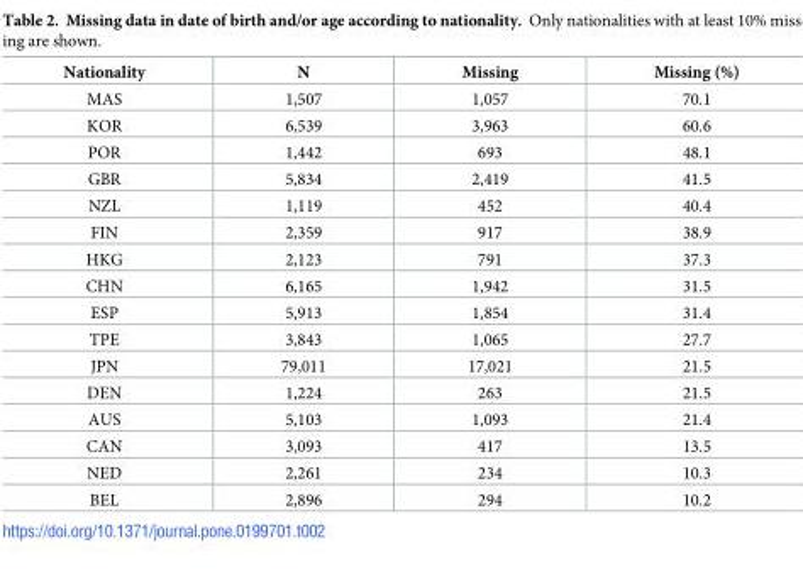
<table><thead><tr><td>Nationality</td><td>N</td><td>Missing</td><td>Missing (%)</td></tr></thead><tbody><tr><td>MAS</td><td>1,507</td><td>1,057</td><td>70.1</td></tr><tr><td>KOR</td><td>6,539</td><td>3,963</td><td>60.6</td></tr><tr><td>POR</td><td>1,442</td><td>693</td><td>48.1</td></tr><tr><td>GBR</td><td>5,834</td><td>2,419</td><td>41.5</td></tr><tr><td>NZL</td><td>1,119</td><td>452</td><td>40.4</td></tr><tr><td>FIN</td><td>2,359</td><td>917</td><td>38.9</td></tr><tr><td>HKG</td><td>2,123</td><td>791</td><td>37.3</td></tr><tr><td>CHN</td><td>6,165</td><td>1,942</td><td>31.5</td></tr><tr><td>ESP</td><td>5,913</td><td>1,854</td><td>31.4</td></tr><tr><td>TPE</td><td>3,843</td><td>1,065</td><td>27.7</td></tr><tr><td>JPN</td><td>79,011</td><td>17,021</td><td>21.5</td></tr><tr><td>DEN</td><td>1,224</td><td>263</td><td>21.5</td></tr><tr><td>AUS</td><td>5,103</td><td>1,093</td><td>21.4</td></tr><tr><td>CAN</td><td>3,093</td><td>417</td><td>13.5</td></tr><tr><td>NED</td><td>2,261</td><td>234</td><td>10.3</td></tr><tr><td>BEL</td><td>2,896</td><td>294</td><td>10.2</td></tr></tbody></table>